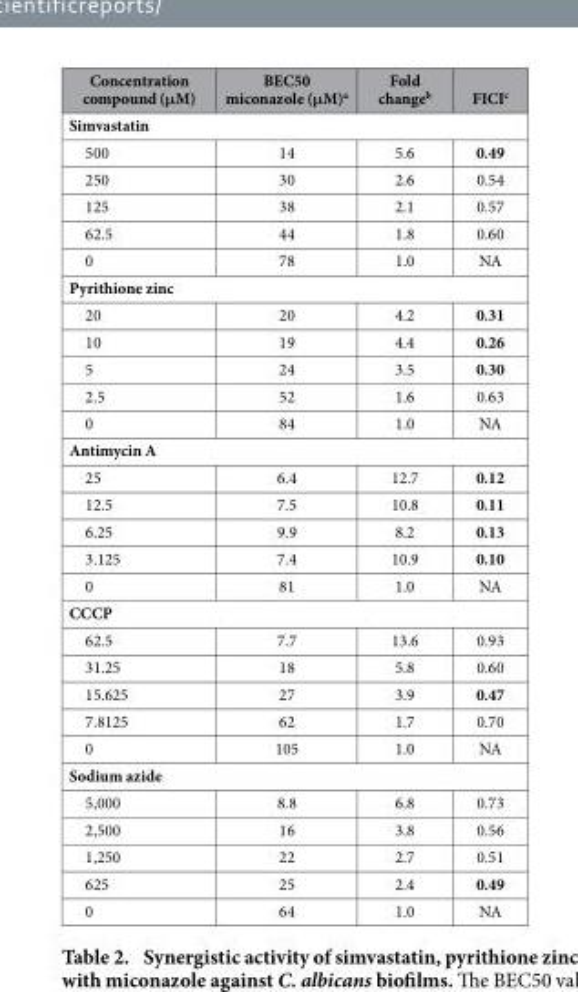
<table><thead><tr><td>Concentration compound (μM)</td><td>BEC50 miconazole (μM)<sup>a</sup></td><td>Fold change<sup>b</sup></td><td>FICI<sup>c</sup></td></tr></thead><tbody><tr><td colspan="4">Simvastatin</td></tr><tr><td>500</td><td>14</td><td>5.6</td><td>0.49</td></tr><tr><td>250</td><td>30</td><td>2.6</td><td>0.54</td></tr><tr><td>125</td><td>38</td><td>2.1</td><td>0.57</td></tr><tr><td>62.5</td><td>44</td><td>1.8</td><td>0.60</td></tr><tr><td>0</td><td>78</td><td>1.0</td><td>NA</td></tr><tr><td colspan="4">Pyrithione zinc</td></tr><tr><td>20</td><td>20</td><td>4.2</td><td>0.31</td></tr><tr><td>10</td><td>19</td><td>4.4</td><td>0.26</td></tr><tr><td>5</td><td>24</td><td>3.5</td><td>0.30</td></tr><tr><td>2.5</td><td>52</td><td>1.6</td><td>0.63</td></tr><tr><td>0</td><td>84</td><td>1.0</td><td>NA</td></tr><tr><td colspan="4">Antimycin A</td></tr><tr><td>25</td><td>6.4</td><td>12.7</td><td>0.12</td></tr><tr><td>12.5</td><td>7.5</td><td>10.8</td><td>0.11</td></tr><tr><td>6.25</td><td>9.9</td><td>8.2</td><td>0.13</td></tr><tr><td>3.125</td><td>7.4</td><td>10.9</td><td>0.10</td></tr><tr><td>0</td><td>81</td><td>1.0</td><td>NA</td></tr><tr><td colspan="4">CCCP</td></tr><tr><td>62.5</td><td>7.7</td><td>13.6</td><td>0.93</td></tr><tr><td>31.25</td><td>18</td><td>5.8</td><td>0.60</td></tr><tr><td>15.625</td><td>27</td><td>3.9</td><td>0.47</td></tr><tr><td>7.8125</td><td>62</td><td>1.7</td><td>0.70</td></tr><tr><td>0</td><td>105</td><td>1.0</td><td>NA</td></tr><tr><td colspan="4">Sodium azide</td></tr><tr><td>5,000</td><td>8.8</td><td>6.8</td><td>0.73</td></tr><tr><td>2,500</td><td>16</td><td>3.8</td><td>0.56</td></tr><tr><td>1,250</td><td>22</td><td>2.7</td><td>0.51</td></tr><tr><td>625</td><td>25</td><td>2.4</td><td>0.49</td></tr><tr><td>0</td><td>64</td><td>1.0</td><td>NA</td></tr></tbody></table>